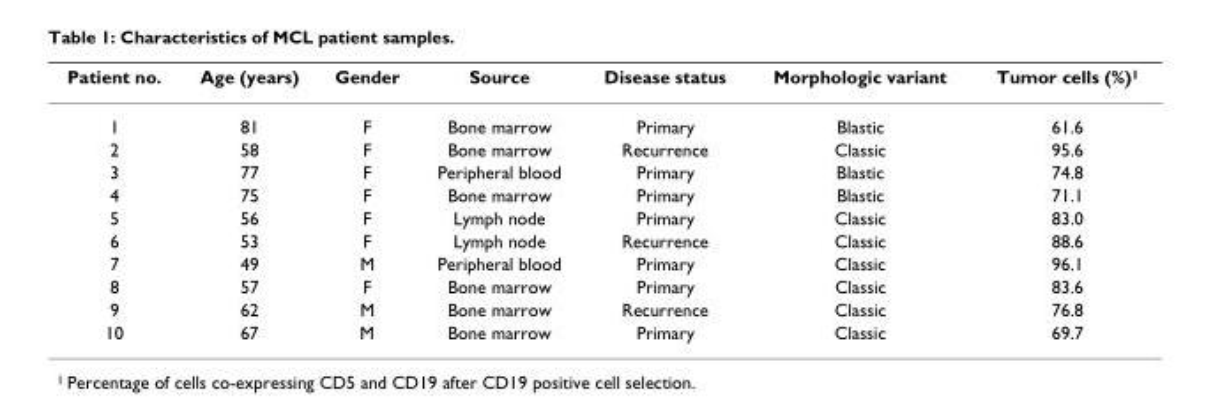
<table><thead><tr><td>Patient no.</td><td>Age (years)</td><td>Gender</td><td>Source</td><td>Disease status</td><td>Morphologic variant</td><td>Tumor cells (%)<sup>1</sup></td></tr></thead><tbody><tr><td>1</td><td>81</td><td>F</td><td>Bone marrow</td><td>Primary</td><td>Blastic</td><td>61.6</td></tr><tr><td>2</td><td>58</td><td>F</td><td>Bone marrow</td><td>Recurrence</td><td>Classic</td><td>95.6</td></tr><tr><td>3</td><td>77</td><td>F</td><td>Peripheral blood</td><td>Primary</td><td>Blastic</td><td>74.8</td></tr><tr><td>4</td><td>75</td><td>F</td><td>Bone marrow</td><td>Primary</td><td>Blastic</td><td>71.1</td></tr><tr><td>5</td><td>56</td><td>F</td><td>Lymph node</td><td>Primary</td><td>Classic</td><td>83.0</td></tr><tr><td>6</td><td>53</td><td>F</td><td>Lymph node</td><td>Recurrence</td><td>Classic</td><td>88.6</td></tr><tr><td>7</td><td>49</td><td>M</td><td>Peripheral blood</td><td>Primary</td><td>Classic</td><td>96.1</td></tr><tr><td>8</td><td>57</td><td>F</td><td>Bone marrow</td><td>Primary</td><td>Classic</td><td>83.6</td></tr><tr><td>9</td><td>62</td><td>M</td><td>Bone marrow</td><td>Recurrence</td><td>Classic</td><td>76.8</td></tr><tr><td>10</td><td>67</td><td>M</td><td>Bone marrow</td><td>Primary</td><td>Classic</td><td>69.7</td></tr></tbody></table>